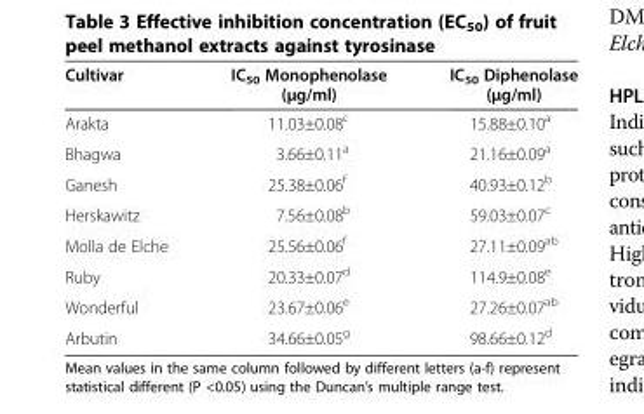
<table><thead><tr><td>Cultivar</td><td>IC<sub>50</sub> Monophenolase (μg/ml)</td><td>IC<sub>50</sub> Diphenolase (μg/ml)</td></tr></thead><tbody><tr><td>Arakta</td><td>11.03±0.08<sup>c</sup></td><td>15.88±0.10<sup>a</sup></td></tr><tr><td>Bhagwa</td><td>3.66±0.11<sup>a</sup></td><td>21.16±0.09<sup>a</sup></td></tr><tr><td>Ganesh</td><td>25.38±0.06<sup>f</sup></td><td>40.93±0.12<sup>b</sup></td></tr><tr><td>Herskawitz</td><td>7.56±0.08<sup>b</sup></td><td>59.03±0.07<sup>c</sup></td></tr><tr><td>Molla de Elche</td><td>25.56±0.06<sup>f</sup></td><td>27.11±0.09<sup>ab</sup></td></tr><tr><td>Ruby</td><td>20.33±0.07<sup>d</sup></td><td>114.9±0.08<sup>e</sup></td></tr><tr><td>Wonderful</td><td>23.67±0.06<sup>e</sup></td><td>27.26±0.07<sup>ab</sup></td></tr><tr><td>Arbutin</td><td>34.66±0.05<sup>g</sup></td><td>98.66±0.12<sup>d</sup></td></tr></tbody></table>